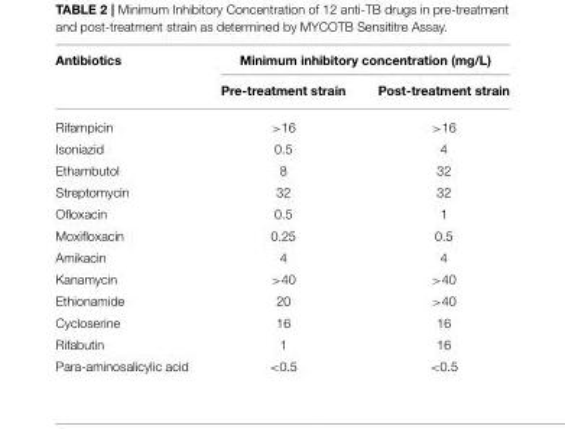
<table><thead><tr><td rowspan="2">Antibiotics</td><td colspan="2">Minimum inhibitory concentration (mg/L)</td></tr><tr><td>Pre-treatment strain</td><td>Post-treatment strain</td></tr></thead><tbody><tr><td>Rifampicin</td><td>&gt;16</td><td>&gt;16</td></tr><tr><td>Isoniazid</td><td>0.5</td><td>4</td></tr><tr><td>Ethambutol</td><td>8</td><td>32</td></tr><tr><td>Streptomycin</td><td>32</td><td>32</td></tr><tr><td>Ofloxacin</td><td>0.5</td><td>1</td></tr><tr><td>Moxifloxacin</td><td>0.25</td><td>0.5</td></tr><tr><td>Amikacin</td><td>4</td><td>4</td></tr><tr><td>Kanamycin</td><td>&gt;40</td><td>&gt;40</td></tr><tr><td>Ethionamide</td><td>20</td><td>&gt;40</td></tr><tr><td>Cycloserine</td><td>16</td><td>16</td></tr><tr><td>Rifabutin</td><td>1</td><td>16</td></tr><tr><td>Para-aminosalicylic acid</td><td>&lt;0.5</td><td>&lt;0.5</td></tr></tbody></table>